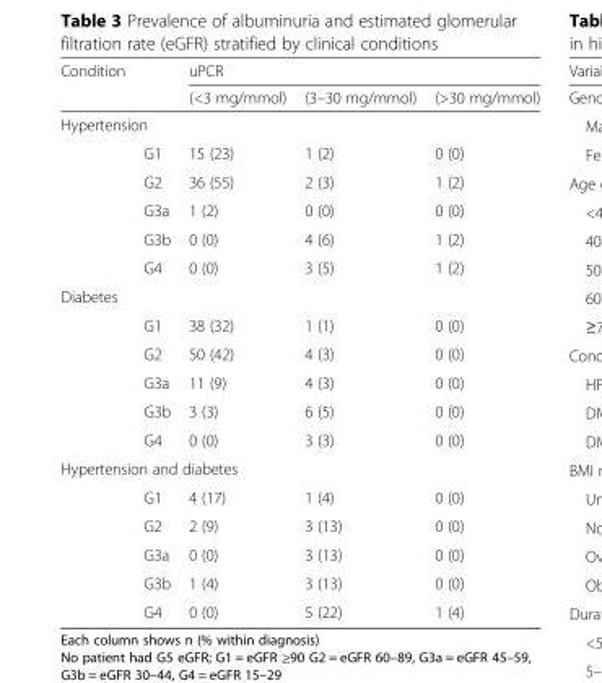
<table><thead><tr><td rowspan="2">Condition</td><td rowspan="2"></td><td colspan="3">uPCR</td></tr><tr><td>(&lt;3 mg/mmol)</td><td>(3–30 mg/mmol)</td><td>(&gt;30 mg/mmol)</td></tr></thead><tbody><tr><td colspan="5">Hypertension</td></tr><tr><td></td><td>G1</td><td>15 (23)</td><td>1 (2)</td><td>0 (0)</td></tr><tr><td></td><td>G2</td><td>36 (55)</td><td>2 (3)</td><td>1 (2)</td></tr><tr><td></td><td>G3a</td><td>1 (2)</td><td>0 (0)</td><td>0 (0)</td></tr><tr><td></td><td>G3b</td><td>0 (0)</td><td>4 (6)</td><td>1 (2)</td></tr><tr><td></td><td>G4</td><td>0 (0)</td><td>3 (5)</td><td>1 (2)</td></tr><tr><td colspan="5">Diabetes</td></tr><tr><td></td><td>G1</td><td>38 (32)</td><td>1 (1)</td><td>0 (0)</td></tr><tr><td></td><td>G2</td><td>50 (42)</td><td>4 (3)</td><td>0 (0)</td></tr><tr><td></td><td>G3a</td><td>11 (9)</td><td>4 (3)</td><td>0 (0)</td></tr><tr><td></td><td>G3b</td><td>3 (3)</td><td>6 (5)</td><td>0 (0)</td></tr><tr><td></td><td>G4</td><td>0 (0)</td><td>3 (3)</td><td>0 (0)</td></tr><tr><td colspan="5">Hypertension and diabetes</td></tr><tr><td></td><td>G1</td><td>4 (17)</td><td>1 (4)</td><td>0 (0)</td></tr><tr><td></td><td>G2</td><td>2 (9)</td><td>3 (13)</td><td>0 (0)</td></tr><tr><td></td><td>G3a</td><td>0 (0)</td><td>3 (13)</td><td>0 (0)</td></tr><tr><td></td><td>G3b</td><td>1 (4)</td><td>3 (13)</td><td>0 (0)</td></tr><tr><td></td><td>G4</td><td>0 (0)</td><td>5 (22)</td><td>1 (4)</td></tr></tbody></table>